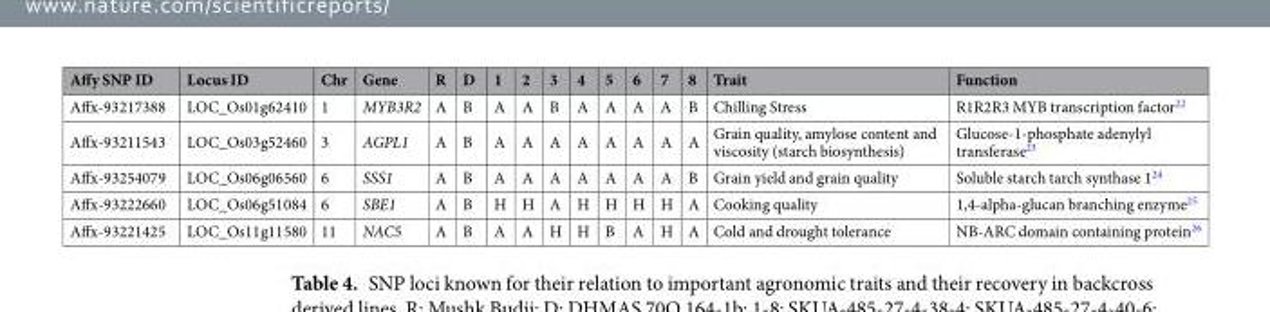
<table><thead><tr><td>Affy SNP ID</td><td>Locus ID</td><td>Chr</td><td>Gene</td><td>R</td><td>D</td><td>1</td><td>2</td><td>3</td><td>4</td><td>5</td><td>6</td><td>7</td><td>8</td><td>Trait</td><td>Function</td></tr></thead><tbody><tr><td>Affx-93217388</td><td>LOC_Os01g62410</td><td>1</td><td>MYB3R2</td><td>A</td><td>B</td><td>A</td><td>A</td><td>B</td><td>A</td><td>A</td><td>A</td><td>A</td><td>B</td><td>Chilling Stress</td><td>R1R2R3 MYB transcription factor<sup>22</sup></td></tr><tr><td>Affx-93211543</td><td>LOC_Os03g52460</td><td>3</td><td>AGPL1</td><td>A</td><td>B</td><td>A</td><td>A</td><td>A</td><td>A</td><td>A</td><td>A</td><td>A</td><td>A</td><td>Grain quality, amylose content and viscosity (starch biosynthesis)</td><td>Glucose-1-phosphate adenylyl transferase<sup>23</sup></td></tr><tr><td>Affx-93254079</td><td>LOC_Os06g06560</td><td>6</td><td>SSS1</td><td>A</td><td>B</td><td>A</td><td>A</td><td>A</td><td>A</td><td>A</td><td>A</td><td>A</td><td>B</td><td>Grain yield and grain quality</td><td>Soluble starch tarch synthase 1<sup>24</sup></td></tr><tr><td>Affx-93222660</td><td>LOC_Os06g51084</td><td>6</td><td>SBE1</td><td>A</td><td>B</td><td>H</td><td>H</td><td>A</td><td>H</td><td>H</td><td>H</td><td>H</td><td>A</td><td>Cooking quality</td><td>1,4-alpha-glucan branching enzyme<sup>25</sup></td></tr><tr><td>Affx-93221425</td><td>LOC_Os11g11580</td><td>11</td><td>NAC5</td><td>A</td><td>B</td><td>A</td><td>A</td><td>H</td><td>H</td><td>B</td><td>A</td><td>H</td><td>A</td><td>Cold and drought tolerance</td><td>NB-ARC domain containing protein<sup>26</sup></td></tr></tbody></table>